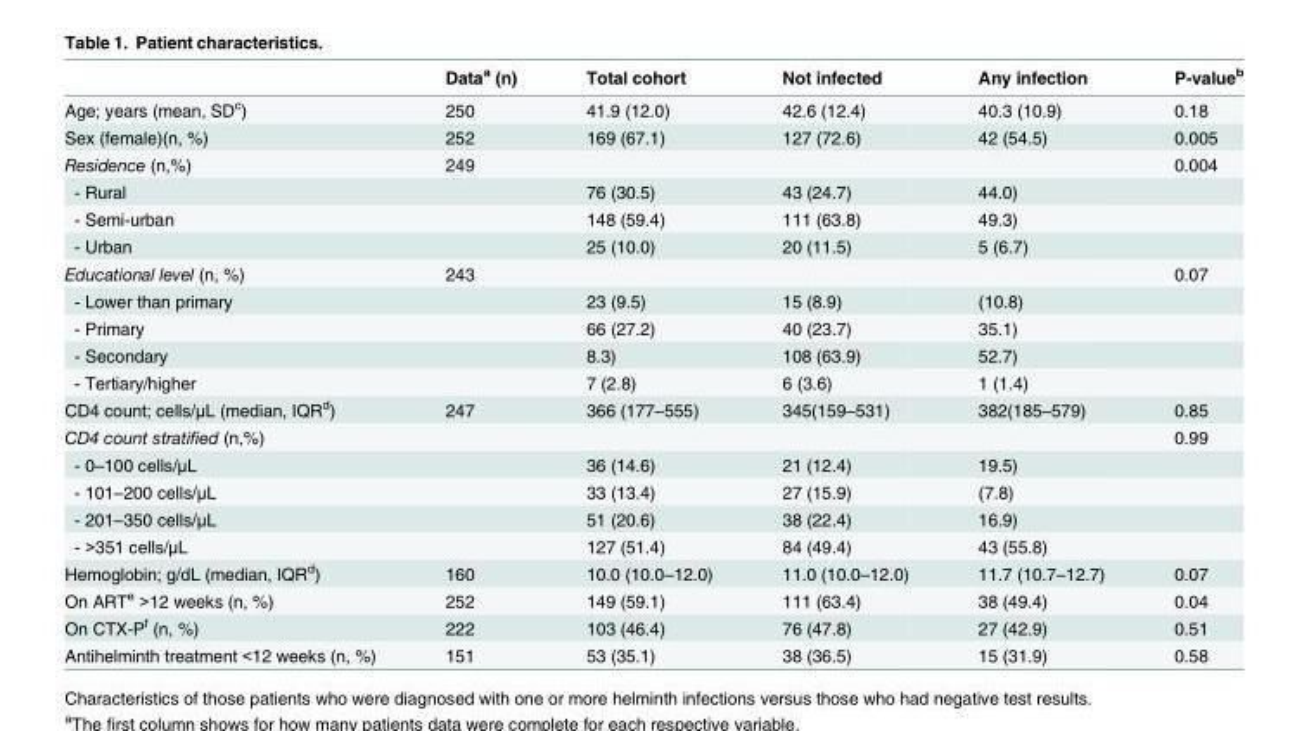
<table><thead><tr><td></td><td>Data<sup>a</sup> (n)</td><td>Total cohort</td><td>Not infected</td><td>Any infection</td><td>P-value<sup>b</sup></td></tr></thead><tbody><tr><td>Age; years (mean, SD<sup>c</sup>)</td><td>250</td><td>41.9 (12.0)</td><td>42.6 (12.4)</td><td>40.3 (10.9)</td><td>0.18</td></tr><tr><td>Sex (female)(n, %)</td><td>252</td><td>169 (67.1)</td><td>127 (72.6)</td><td>42 (54.5)</td><td>0.005</td></tr><tr><td>Residence (n,%)</td><td>249</td><td></td><td></td><td></td><td>0.004</td></tr><tr><td>- Rural</td><td></td><td>76 (30.5)</td><td>43 (24.7)</td><td>44.0)</td><td></td></tr><tr><td>- Semi-urban</td><td></td><td>148 (59.4)</td><td>111 (63.8)</td><td>49.3)</td><td></td></tr><tr><td>- Urban</td><td></td><td>25 (10.0)</td><td>20 (11.5)</td><td>5 (6.7)</td><td></td></tr><tr><td>Educational level (n, %)</td><td>243</td><td></td><td></td><td></td><td>0.07</td></tr><tr><td>- Lower than primary</td><td></td><td>23 (9.5)</td><td>15 (8.9)</td><td>(10.8)</td><td></td></tr><tr><td>- Primary</td><td></td><td>66 (27.2)</td><td>40 (23.7)</td><td>35.1)</td><td></td></tr><tr><td>- Secondary</td><td></td><td>8.3)</td><td>108 (63.9)</td><td>52.7)</td><td></td></tr><tr><td>- Tertiary/higher</td><td></td><td>7 (2.8)</td><td>6 (3.6)</td><td>1 (1.4)</td><td></td></tr><tr><td>CD4 count; cells/μL (median, IQR<sup>d</sup>)</td><td>247</td><td>366 (177–555)</td><td>345(159–531)</td><td>382(185–579)</td><td>0.85</td></tr><tr><td>CD4 count stratified (n,%)</td><td></td><td></td><td></td><td></td><td>0.99</td></tr><tr><td>- 0–100 cells/μL</td><td></td><td>36 (14.6)</td><td>21 (12.4)</td><td>19.5)</td><td></td></tr><tr><td>- 101–200 cells/μL</td><td></td><td>33 (13.4)</td><td>27 (15.9)</td><td>(7.8)</td><td></td></tr><tr><td>- 201–350 cells/μL</td><td></td><td>51 (20.6)</td><td>38 (22.4)</td><td>16.9)</td><td></td></tr><tr><td>- &gt;351 cells/μL</td><td></td><td>127 (51.4)</td><td>84 (49.4)</td><td>43 (55.8)</td><td></td></tr><tr><td>Hemoglobin; g/dL (median, IQR<sup>d</sup>)</td><td>160</td><td>10.0 (10.0–12.0)</td><td>11.0 (10.0–12.0)</td><td>11.7 (10.7–12.7)</td><td>0.07</td></tr><tr><td>On ART<sup>e</sup> &gt;12 weeks (n, %)</td><td>252</td><td>149 (59.1)</td><td>111 (63.4)</td><td>38 (49.4)</td><td>0.04</td></tr><tr><td>On CTX-P<sup>f</sup> (n, %)</td><td>222</td><td>103 (46.4)</td><td>76 (47.8)</td><td>27 (42.9)</td><td>0.51</td></tr><tr><td>Antihelminth treatment &lt;12 weeks (n, %)</td><td>151</td><td>53 (35.1)</td><td>38 (36.5)</td><td>15 (31.9)</td><td>0.58</td></tr></tbody></table>